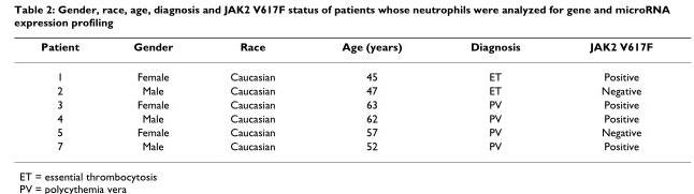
<table><thead><tr><td>Patient</td><td>Gender</td><td>Race</td><td>Age (years)</td><td>Diagnosis</td><td>JAK2 V617F</td></tr></thead><tbody><tr><td>1</td><td>Female</td><td>Caucasian</td><td>45</td><td>ET</td><td>Positive</td></tr><tr><td>2</td><td>Male</td><td>Caucasian</td><td>47</td><td>ET</td><td>Negative</td></tr><tr><td>3</td><td>Female</td><td>Caucasian</td><td>63</td><td>PV</td><td>Positive</td></tr><tr><td>4</td><td>Male</td><td>Caucasian</td><td>62</td><td>PV</td><td>Positive</td></tr><tr><td>5</td><td>Female</td><td>Caucasian</td><td>57</td><td>PV</td><td>Negative</td></tr><tr><td>7</td><td>Male</td><td>Caucasian</td><td>52</td><td>PV</td><td>Positive</td></tr></tbody></table>